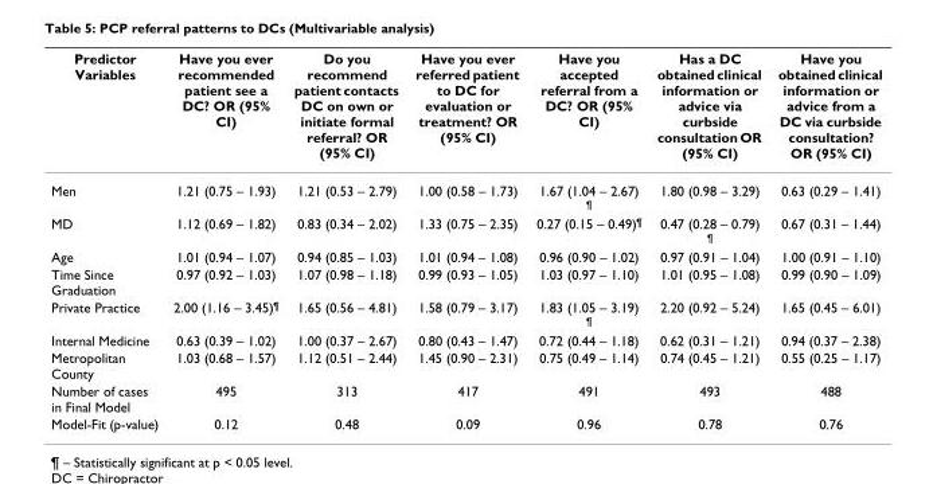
<table><thead><tr><td>Predictor Variables</td><td>Have you ever recommended patient see a DC? OR (95% CI)</td><td>Do you recommend patient contacts DC on own or initiate formal referral? OR (95% CI)</td><td>Have you ever referred patient to DC for evaluation or treatment? OR (95% CI)</td><td>Have you accepted referral from a DC? OR (95% CI)</td><td>Has a DC obtained clinical information or advice via curbside consultation OR (95% CI)</td><td>Have you obtained clinical information or advice from a DC via curbside consultation? OR (95% CI)</td></tr></thead><tbody><tr><td>Men</td><td>1.21 (0.75 – 1.93)</td><td>1.21 (0.53 – 2.79)</td><td>1.00 (0.58 – 1.73)</td><td>1.67 (1.04 – 2.67) <sup>¶</sup></td><td>1.80 (0.98 – 3.29)</td><td>0.63 (0.29 – 1.41)</td></tr><tr><td>MD</td><td>1.12 (0.69 – 1.82)</td><td>0.83 (0.34 – 2.02)</td><td>1.33 (0.75 – 2.35)</td><td>0.27 (0.15 – 0.49)<sup>¶</sup></td><td>0.47 (0.28 – 0.79) <sup>¶</sup></td><td>0.67 (0.31 – 1.44)</td></tr><tr><td>Age</td><td>1.01 (0.94 – 1.07)</td><td>0.94 (0.85 – 1.03)</td><td>1.01 (0.94 – 1.08)</td><td>0.96 (0.90 – 1.02)</td><td>0.97 (0.91 – 1.04)</td><td>1.00 (0.91 – 1.10)</td></tr><tr><td>Time Since Graduation</td><td>0.97 (0.92 – 1.03)</td><td>1.07 (0.98 – 1.18)</td><td>0.99 (0.93 – 1.05)</td><td>1.03 (0.97 – 1.10)</td><td>1.01 (0.95 – 1.08)</td><td>0.99 (0.90 – 1.09)</td></tr><tr><td>Private Practice</td><td>2.00 (1.16 – 3.45)<sup>¶</sup></td><td>1.65 (0.56 – 4.81)</td><td>1.58 (0.79 – 3.17)</td><td>1.83 (1.05 – 3.19) <sup>¶</sup></td><td>2.20 (0.92 – 5.24)</td><td>1.65 (0.45 – 6.01)</td></tr><tr><td>Internal Medicine</td><td>0.63 (0.39 – 1.02)</td><td>1.00 (0.37 – 2.67)</td><td>0.80 (0.43 – 1.47)</td><td>0.72 (0.44 – 1.18)</td><td>0.62 (0.31 – 1.21)</td><td>0.94 (0.37 – 2.38)</td></tr><tr><td>Metropolitan County</td><td>1.03 (0.68 – 1.57)</td><td>1.12 (0.51 – 2.44)</td><td>1.45 (0.90 – 2.31)</td><td>0.75 (0.49 – 1.14)</td><td>0.74 (0.45 – 1.21)</td><td>0.55 (0.25 – 1.17)</td></tr><tr><td>Number of cases in Final Model</td><td>495</td><td>313</td><td>417</td><td>491</td><td>493</td><td>488</td></tr><tr><td>Model-Fit (p-value)</td><td>0.12</td><td>0.48</td><td>0.09</td><td>0.96</td><td>0.78</td><td>0.76</td></tr></tbody></table>